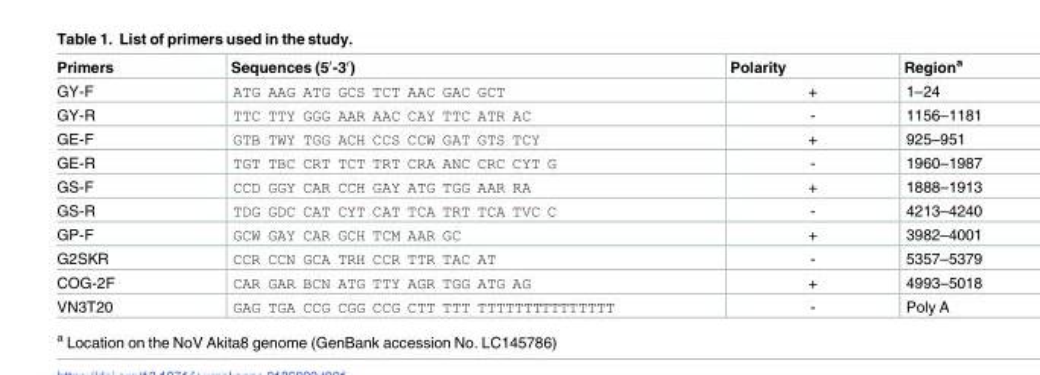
<table><thead><tr><td>Primers</td><td>Sequences (5′-3′)</td><td>Polarity</td><td>Region<sup>a</sup></td></tr></thead><tbody><tr><td>GY-F</td><td>ATG AAG ATG GCS TCT AAC GAC GCT</td><td>+</td><td>1–24</td></tr><tr><td>GY-R</td><td>TTC TTY GGG AAR AAC CAY TTC ATR AC</td><td>-</td><td>1156–1181</td></tr><tr><td>GE-F</td><td>GTB TWY TGG ACH CCS CCW GAT GTS TCY</td><td>+</td><td>925–951</td></tr><tr><td>GE-R</td><td>TGT TBC CRT TCT TRT CRA ANC CRC CYT G</td><td>-</td><td>1960–1987</td></tr><tr><td>GS-F</td><td>CCD GGY CAR CCH GAY ATG TGG AAR RA</td><td>+</td><td>1888–1913</td></tr><tr><td>GS-R</td><td>TDG GDC CAT CYT CAT TCA TRT TCA TVC C</td><td>-</td><td>4213–4240</td></tr><tr><td>GP-F</td><td>GCW GAY CAR GCH TCM AAR GC</td><td>+</td><td>3982–4001</td></tr><tr><td>G2SKR</td><td>CCR CCN GCA TRH CCR TTR TAC AT</td><td>-</td><td>5357–5379</td></tr><tr><td>COG-2F</td><td>CAR GAR BCN ATG TTY AGR TGG ATG AG</td><td>+</td><td>4993–5018</td></tr><tr><td>VN3T20</td><td>GAG TGA CCG CGG CCG CTT TTT TTTTTTTTTTTTTTT</td><td>-</td><td>Poly A</td></tr></tbody></table>